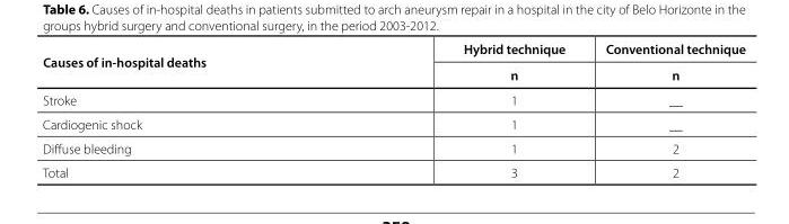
<table><thead><tr><td rowspan="2">Causes of in-hospital deaths</td><td rowspan="2">Hybrid technique n</td><td rowspan="2">Conventional technique n</td></tr><tr></tr></thead><tbody><tr><td>Stroke</td><td>1</td><td>__</td></tr><tr><td>Cardiogenic shock</td><td>1</td><td>__</td></tr><tr><td>Diffuse bleeding</td><td>1</td><td>2</td></tr><tr><td>Total</td><td>3</td><td>2</td></tr></tbody></table>